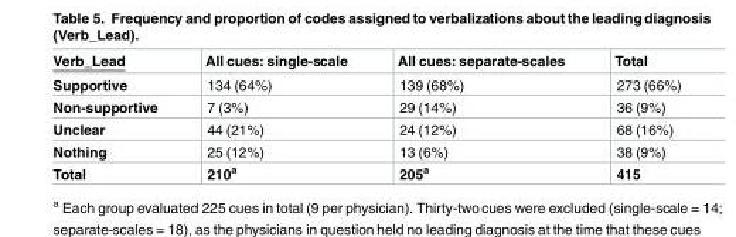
<table><thead><tr><td>Verb_Lead</td><td>All cues: single-scale</td><td>All cues: separate-scales</td><td>Total</td></tr></thead><tbody><tr><td>Supportive</td><td>134 (64%)</td><td>139 (68%)</td><td>273 (66%)</td></tr><tr><td>Non-supportive</td><td>7 (3%)</td><td>29 (14%)</td><td>36 (9%)</td></tr><tr><td>Unclear</td><td>44 (21%)</td><td>24 (12%)</td><td>68 (16%)</td></tr><tr><td>Nothing</td><td>25 (12%)</td><td>13 (6%)</td><td>38 (9%)</td></tr><tr><td>Total</td><td>210<sup>a</sup></td><td>205<sup>a</sup></td><td>415</td></tr></tbody></table>